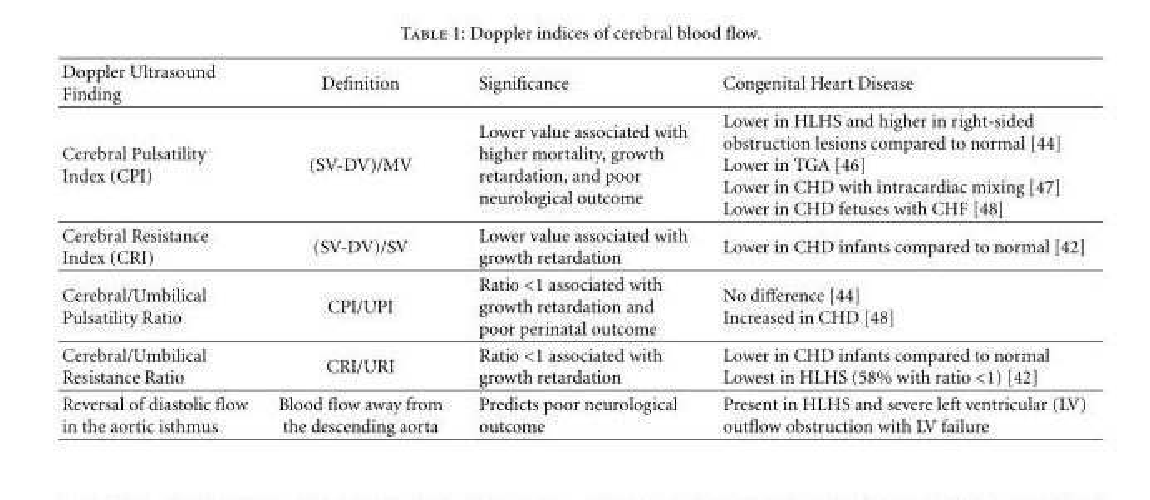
<table><thead><tr><td>Doppler Ultrasound Finding</td><td>Definition</td><td>Significance</td><td>Congenital Heart Disease</td></tr></thead><tbody><tr><td>Cerebral Pulsatility Index (CPI)</td><td>(SV-DV)/MV</td><td>Lower value associated with higher mortality, growth retardation, and poor neurological outcome</td><td>Lower in HLHS and higher in right-sided obstruction lesions compared to normal [44] Lower in TGA [46] Lower in CHD with intracardiac mixing [47] Lower in CHD fetuses with CHF [48]</td></tr><tr><td>Cerebral Resistance Index (CRI)</td><td>(SV-DV)/SV</td><td>Lower value associated with growth retardation</td><td>Lower in CHD infants compared to normal [42]</td></tr><tr><td>Cerebral/Umbilical Pulsatility Ratio</td><td>CPI/UPI</td><td>Ratio &lt;1 associated with growth retardation and poor perinatal outcome</td><td>No difference [44] Increased in CHD [48]</td></tr><tr><td>Cerebral/Umbilical Resistance Ratio</td><td>CRI/URI</td><td>Ratio &lt;1 associated with growth retardation</td><td>Lower in CHD infants compared to normal Lowest in HLHS (58% with ratio &lt;1) [42]</td></tr><tr><td>Reversal of diastolic flow in the aortic isthmus</td><td>Blood flow away from the descending aorta</td><td>Predicts poor neurological outcome</td><td>Present in HLHS and severe left ventricular (LV) outflow obstruction with LV failure</td></tr></tbody></table>